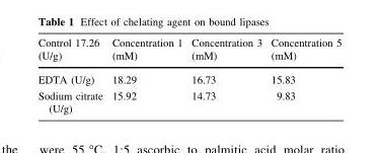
<table><thead><tr><td>Control 17.26 (U/g)</td><td>Concentration 1 (mM)</td><td>Concentration 3 (mM)</td><td>Concentration 5 (mM)</td></tr></thead><tbody><tr><td>EDTA (U/g)</td><td>18.29</td><td>16.73</td><td>15.83</td></tr><tr><td>Sodium citrate (U/g)</td><td>15.92</td><td>14.73</td><td>9.83</td></tr></tbody></table>